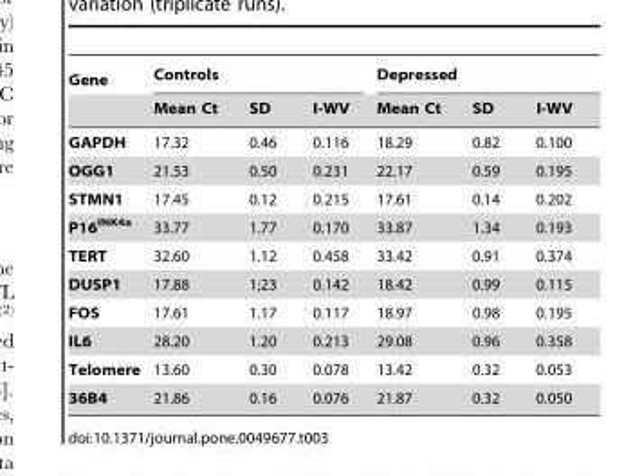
<table><thead><tr><td rowspan="2">Gene</td><td colspan="3">Controls</td><td colspan="3">Depressed</td></tr><tr><td>Mean Ct</td><td>SD</td><td>I-WV</td><td>Mean Ct</td><td>SD</td><td>I-WV</td></tr></thead><tbody><tr><td>GAPDH</td><td>17.32</td><td>0.46</td><td>0.116</td><td>18.29</td><td>0.82</td><td>0.100</td></tr><tr><td>OGG1</td><td>21.53</td><td>0.50</td><td>0.231</td><td>22.17</td><td>0.59</td><td>0.195</td></tr><tr><td>STMN1</td><td>17.45</td><td>0.12</td><td>0.215</td><td>17.61</td><td>0.14</td><td>0.202</td></tr><tr><td>P16<sup>INK4a</sup></td><td>33.77</td><td>1.77</td><td>0.170</td><td>33.87</td><td>1.34</td><td>0.193</td></tr><tr><td>TERT</td><td>32.60</td><td>1.12</td><td>0.458</td><td>33.42</td><td>0.91</td><td>0.374</td></tr><tr><td>DUSP1</td><td>17.88</td><td>1;23</td><td>0.142</td><td>18.42</td><td>0.99</td><td>0.115</td></tr><tr><td>FOS</td><td>17.61</td><td>1.17</td><td>0.117</td><td>18.97</td><td>0.98</td><td>0.195</td></tr><tr><td>IL6</td><td>28.20</td><td>1.20</td><td>0.213</td><td>29.08</td><td>0.96</td><td>0.358</td></tr><tr><td>Telomere</td><td>13.60</td><td>0.30</td><td>0.078</td><td>13.42</td><td>0.32</td><td>0.053</td></tr><tr><td>36B4</td><td>21.86</td><td>0.16</td><td>0.076</td><td>21.87</td><td>0.32</td><td>0.050</td></tr></tbody></table>